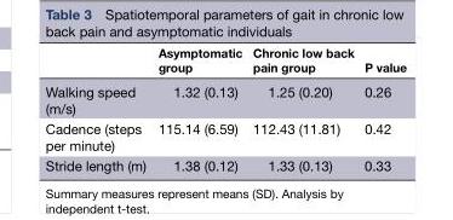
<table><thead><tr><td></td><td>Asymptomatic group</td><td>Chronic low back pain group</td><td>P value</td></tr></thead><tbody><tr><td>Walking speed (m/s)</td><td>1.32 (0.13)</td><td>1.25 (0.20)</td><td>0.26</td></tr><tr><td>Cadence (steps per minute)</td><td>115.14 (6.59)</td><td>112.43 (11.81)</td><td>0.42</td></tr><tr><td>Stride length (m)</td><td>1.38 (0.12)</td><td>1.33 (0.13)</td><td>0.33</td></tr></tbody></table>